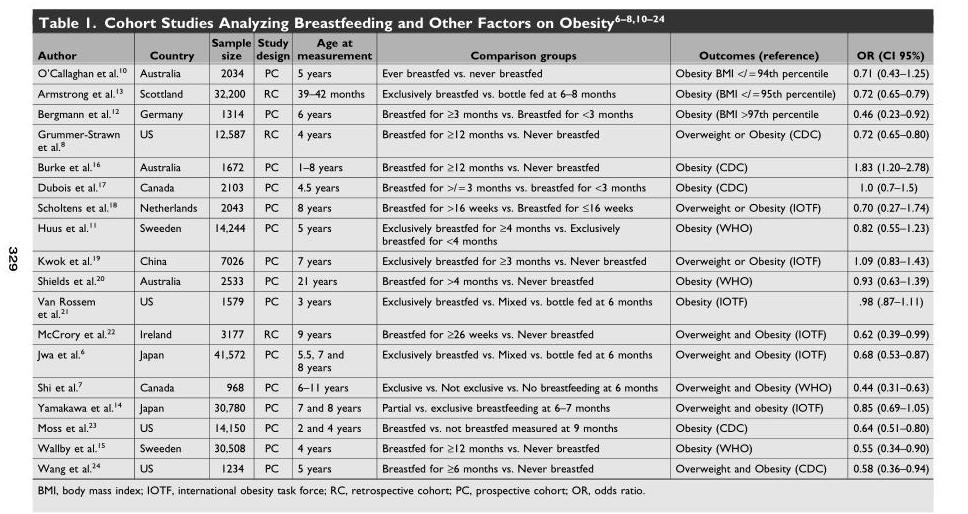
<table><thead><tr><td>Author</td><td>Country</td><td>Sample size</td><td>Study design</td><td>Age at measurement</td><td>Comparison groups</td><td>Outcomes (reference)</td><td>OR (CI 95%)</td></tr></thead><tbody><tr><td>O’Callaghan et al.<sup>10</sup></td><td>Australia</td><td>2034</td><td>PC</td><td>5 years</td><td>Ever breastfed vs. never breastfed</td><td>Obesity BMI &lt;/ = 94th percentile</td><td>0.71 (0.43–1.25)</td></tr><tr><td>Armstrong et al.<sup>13</sup></td><td>Scottland</td><td>32,200</td><td>RC</td><td>39–42 months</td><td>Exclusively breastfed vs. bottle fed at 6–8 months</td><td>Obesity (BMI &lt;/ = 95th percentile)</td><td>0.72 (0.65–0.79)</td></tr><tr><td>Bergmann et al.<sup>12</sup></td><td>Germany</td><td>1314</td><td>PC</td><td>6 years</td><td>Breastfed for ‡3 months vs. Breastfed for &lt;3 months</td><td>Obesity (BMI &gt;97th percentile</td><td>0.46 (0.23–0.92)</td></tr><tr><td>Grummer-Strawn et al.<sup>8</sup></td><td>US</td><td>12,587</td><td>RC</td><td>4 years</td><td>Breastfed for ‡12 months vs. Never breastfed</td><td>Overweight or Obesity (CDC)</td><td>0.72 (0.65–0.80)</td></tr><tr><td>Burke et al.<sup>16</sup></td><td>Australia</td><td>1672</td><td>PC</td><td>1–8 years</td><td>Breastfed for ‡12 months vs. Never breastfed</td><td>Obesity (CDC)</td><td>1.83 (1.20–2.78)</td></tr><tr><td>Dubois et al.<sup>17</sup></td><td>Canada</td><td>2103</td><td>PC</td><td>4.5 years</td><td>Breastfed for &gt;/ = 3 months vs. breastfed for &lt;3 months</td><td>Obesity (CDC)</td><td>1.0 (0.7–1.5)</td></tr><tr><td>Scholtens et al.<sup>18</sup></td><td>Netherlands</td><td>2043</td><td>PC</td><td>8 years</td><td>Breastfed for &gt;16 weeks vs. Breastfed for ≤16 weeks</td><td>Overweight or Obesity (IOTF)</td><td>0.70 (0.27–1.74)</td></tr><tr><td>Huus et al.<sup>11</sup></td><td>Sweeden</td><td>14,244</td><td>PC</td><td>5 years</td><td>Exclusively breastfed for ‡4 months vs. Exclusively breastfed for &lt;4 months</td><td>Obesity (WHO)</td><td>0.82 (0.55–1.23)</td></tr><tr><td>Kwok et al.<sup>19</sup></td><td>China</td><td>7026</td><td>PC</td><td>7 years</td><td>Exclusively breastfed for ‡3 months vs. Never breastfed</td><td>Overweight or Obesity (IOTF)</td><td>1.09 (0.83–1.43)</td></tr><tr><td>Shields et al.<sup>20</sup></td><td>Australia</td><td>2533</td><td>PC</td><td>21 years</td><td>Breastfed for &gt;4 months vs. Never breastfed</td><td>Obesity (WHO)</td><td>0.93 (0.63–1.39)</td></tr><tr><td>Van Rossem et al.<sup>21</sup></td><td>US</td><td>1579</td><td>PC</td><td>3 years</td><td>Exclusively breastfed vs. Mixed vs. bottle fed at 6 months</td><td>Obesity (IOTF)</td><td>.98 (.87–1.11)</td></tr><tr><td>McCrory et al.<sup>22</sup></td><td>Ireland</td><td>3177</td><td>RC</td><td>9 years</td><td>Breastfed for ‡26 weeks vs. Never breastfed</td><td>Overweight and Obesity (IOTF)</td><td>0.62 (0.39–0.99)</td></tr><tr><td>Jwa et al.<sup>6</sup></td><td>Japan</td><td>41,572</td><td>PC</td><td>5.5, 7 and 8 years</td><td>Exclusively breastfed vs. Mixed vs. bottle fed at 6 months</td><td>Overweight and Obesity (IOTF)</td><td>0.68 (0.53–0.87)</td></tr><tr><td>Shi et al.<sup>7</sup></td><td>Canada</td><td>968</td><td>PC</td><td>6–11 years</td><td>Exclusive vs. Not exclusive vs. No breastfeeding at 6 months</td><td>Overweight and Obesity (WHO)</td><td>0.44 (0.31–0.63)</td></tr><tr><td>Yamakawa et al.<sup>14</sup></td><td>Japan</td><td>30,780</td><td>PC</td><td>7 and 8 years</td><td>Partial vs. exclusive breastfeeding at 6–7 months</td><td>Overweight and obesity (IOTF)</td><td>0.85 (0.69–1.05)</td></tr><tr><td>Moss et al.<sup>23</sup></td><td>US</td><td>14,150</td><td>PC</td><td>2 and 4 years</td><td>Breastfed vs. not breastfed measured at 9 months</td><td>Obesity (CDC)</td><td>0.64 (0.51–0.80)</td></tr><tr><td>Wallby et al.<sup>15</sup></td><td>Sweeden</td><td>30,508</td><td>PC</td><td>4 years</td><td>Breastfed for ‡12 months vs. Never breastfed</td><td>Obesity (WHO)</td><td>0.55 (0.34–0.90)</td></tr><tr><td>Wang et al.<sup>24</sup></td><td>US</td><td>1234</td><td>PC</td><td>5 years</td><td>Breastfed for ‡6 months vs. Never breastfed</td><td>Overweight and Obesity (CDC)</td><td>0.58 (0.36–0.94)</td></tr></tbody></table>